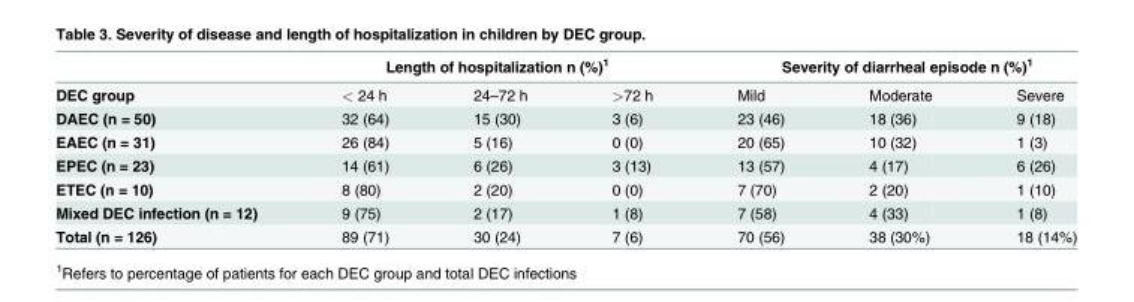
<table><thead><tr><td rowspan="2">DEC group</td><td colspan="3">Length of hospitalization n (%)<sup>1</sup></td><td colspan="3">Severity of diarrheal episode n (%)<sup>1</sup></td></tr><tr><td>&lt; 24 h</td><td>24–72 h</td><td>&gt;72 h</td><td>Mild</td><td>Moderate</td><td>Severe</td></tr></thead><tbody><tr><td>DAEC (n = 50)</td><td>32 (64)</td><td>15 (30)</td><td>3 (6)</td><td>23 (46)</td><td>18 (36)</td><td>9 (18)</td></tr><tr><td>EAEC (n = 31)</td><td>26 (84)</td><td>5 (16)</td><td>0 (0)</td><td>20 (65)</td><td>10 (32)</td><td>1 (3)</td></tr><tr><td>EPEC (n = 23)</td><td>14 (61)</td><td>6 (26)</td><td>3 (13)</td><td>13 (57)</td><td>4 (17)</td><td>6 (26)</td></tr><tr><td>ETEC (n = 10)</td><td>8 (80)</td><td>2 (20)</td><td>0 (0)</td><td>7 (70)</td><td>2 (20)</td><td>1 (10)</td></tr><tr><td>Mixed DEC infection (n = 12)</td><td>9 (75)</td><td>2 (17)</td><td>1 (8)</td><td>7 (58)</td><td>4 (33)</td><td>1 (8)</td></tr><tr><td>Total (n = 126)</td><td>89 (71)</td><td>30 (24)</td><td>7 (6)</td><td>70 (56)</td><td>38 (30%)</td><td>18 (14%)</td></tr></tbody></table>